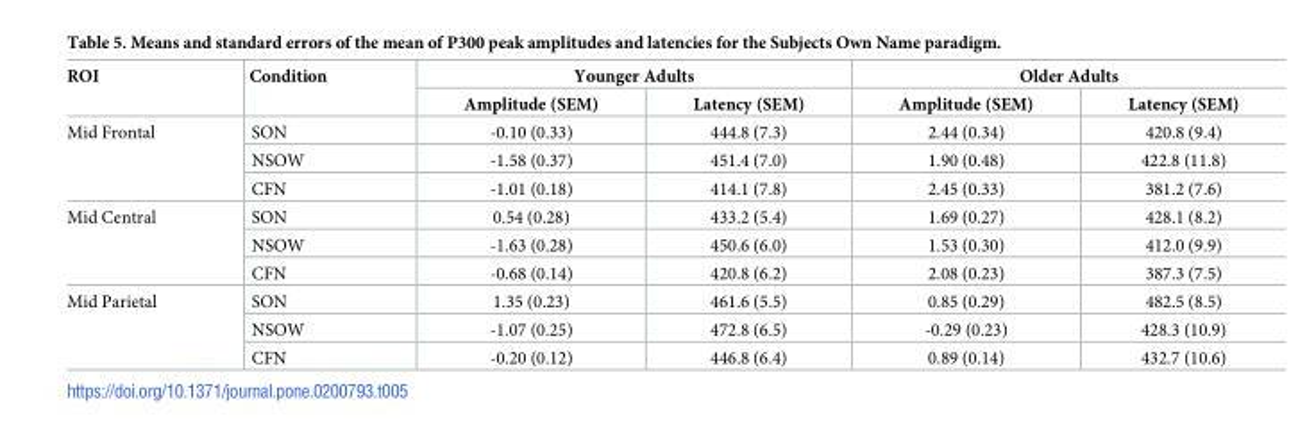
<table><thead><tr><td rowspan="2">ROI</td><td rowspan="2">Condition</td><td colspan="2">Younger Adults</td><td colspan="2">Older Adults</td></tr><tr><td>Amplitude (SEM)</td><td>Latency (SEM)</td><td>Amplitude (SEM)</td><td>Latency (SEM)</td></tr></thead><tbody><tr><td rowspan="3">Mid Frontal</td><td>SON</td><td>-0.10 (0.33)</td><td>444.8 (7.3)</td><td>2.44 (0.34)</td><td>420.8 (9.4)</td></tr><tr><td>NSOW</td><td>-1.58 (0.37)</td><td>451.4 (7.0)</td><td>1.90 (0.48)</td><td>422.8 (11.8)</td></tr><tr><td>CFN</td><td>-1.01 (0.18)</td><td>414.1 (7.8)</td><td>2.45 (0.33)</td><td>381.2 (7.6)</td></tr><tr><td rowspan="3">Mid Central</td><td>SON</td><td>0.54 (0.28)</td><td>433.2 (5.4)</td><td>1.69 (0.27)</td><td>428.1 (8.2)</td></tr><tr><td>NSOW</td><td>-1.63 (0.28)</td><td>450.6 (6.0)</td><td>1.53 (0.30)</td><td>412.0 (9.9)</td></tr><tr><td>CFN</td><td>-0.68 (0.14)</td><td>420.8 (6.2)</td><td>2.08 (0.23)</td><td>387.3 (7.5)</td></tr><tr><td rowspan="3">Mid Parietal</td><td>SON</td><td>1.35 (0.23)</td><td>461.6 (5.5)</td><td>0.85 (0.29)</td><td>482.5 (8.5)</td></tr><tr><td>NSOW</td><td>-1.07 (0.25)</td><td>472.8 (6.5)</td><td>-0.29 (0.23)</td><td>428.3 (10.9)</td></tr><tr><td>CFN</td><td>-0.20 (0.12)</td><td>446.8 (6.4)</td><td>0.89 (0.14)</td><td>432.7 (10.6)</td></tr></tbody></table>